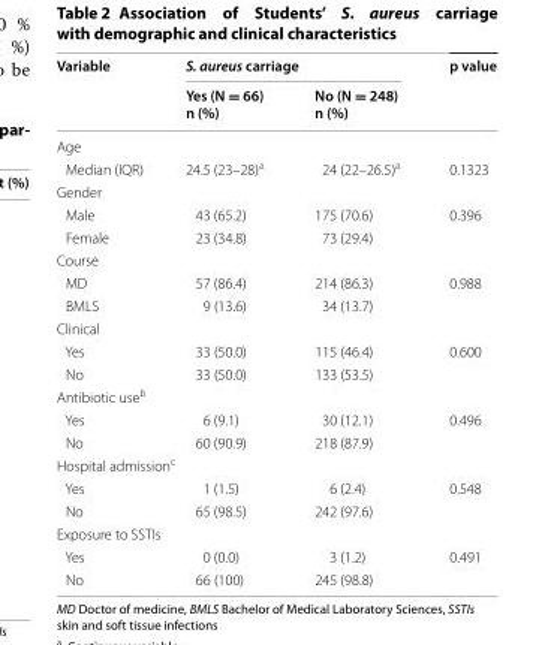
<table><thead><tr><td rowspan="2">Variable</td><td colspan="2">S. aureus carriage</td><td rowspan="2">p value</td></tr><tr><td>Yes (N = 66) n (%)</td><td>No (N = 248) n (%)</td></tr></thead><tbody><tr><td colspan="4">Age</td></tr><tr><td>Median (IQR)</td><td>24.5 (23–28)<sup>a</sup></td><td>24 (22–26.5)<sup>a</sup></td><td>0.1323</td></tr><tr><td colspan="4">Gender</td></tr><tr><td>Male</td><td>43 (65.2)</td><td>175 (70.6)</td><td rowspan="2">0.396</td></tr><tr><td>Female</td><td>23 (34.8)</td><td>73 (29.4)</td></tr><tr><td colspan="4">Course</td></tr><tr><td>MD</td><td>57 (86.4)</td><td>214 (86.3)</td><td rowspan="2">0.988</td></tr><tr><td>BMLS</td><td>9 (13.6)</td><td>34 (13.7)</td></tr><tr><td colspan="4">Clinical</td></tr><tr><td>Yes</td><td>33 (50.0)</td><td>115 (46.4)</td><td rowspan="2">0.600</td></tr><tr><td>No</td><td>33 (50.0)</td><td>133 (53.5)</td></tr><tr><td colspan="4">Antibiotic use<sup>b</sup></td></tr><tr><td>Yes</td><td>6 (9.1)</td><td>30 (12.1)</td><td rowspan="2">0.496</td></tr><tr><td>No</td><td>60 (90.9)</td><td>218 (87.9)</td></tr><tr><td colspan="4">Hospital admission<sup>c</sup></td></tr><tr><td>Yes</td><td>1 (1.5)</td><td>6 (2.4)</td><td rowspan="2">0.548</td></tr><tr><td>No</td><td>65 (98.5)</td><td>242 (97.6)</td></tr><tr><td colspan="4">Exposure to SSTIs</td></tr><tr><td>Yes</td><td>0 (0.0)</td><td>3 (1.2)</td><td rowspan="2">0.491</td></tr><tr><td>No</td><td>66 (100)</td><td>245 (98.8)</td></tr></tbody></table>